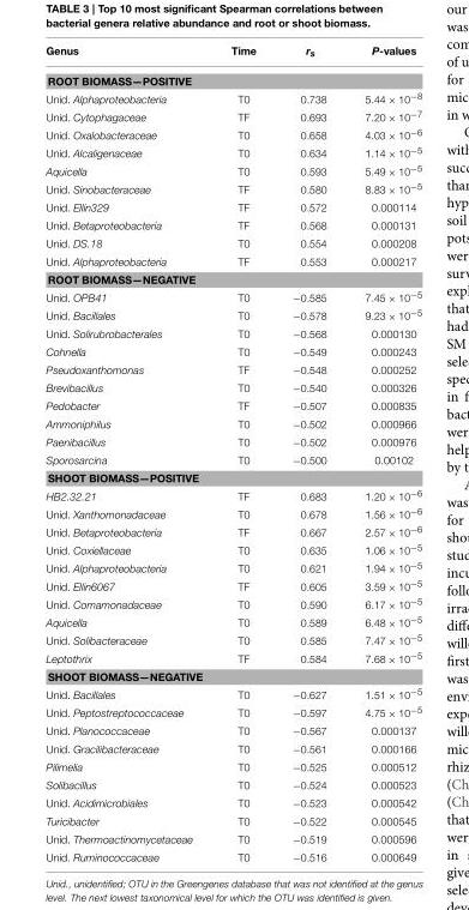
<table><thead><tr><td>Genus</td><td>Time</td><td>rs</td><td>P-values</td></tr></thead><tbody><tr><td colspan="4">ROOT BIOMASS—POSITIVE</td></tr><tr><td>Unid. Alphaproteobacteria</td><td>T0</td><td>0.738</td><td>5.44 × 10<sup>−8</sup></td></tr><tr><td>Unid. Cytophagaceae</td><td>TF</td><td>0.693</td><td>7.20 × 10<sup>−7</sup></td></tr><tr><td>Unid. Oxalobacteraceae</td><td>T0</td><td>0.658</td><td>4.03 × 10<sup>−6</sup></td></tr><tr><td>Unid. Alcaligenaceae</td><td>T0</td><td>0.634</td><td>1.14 × 10<sup>−5</sup></td></tr><tr><td>Aquicella</td><td>T0</td><td>0.593</td><td>5.49 × 10<sup>−5</sup></td></tr><tr><td>Unid. Sinobacteraceae</td><td>TF</td><td>0.580</td><td>8.83 × 10<sup>−5</sup></td></tr><tr><td>Unid. Ellin329</td><td>TF</td><td>0.572</td><td>0.000114</td></tr><tr><td>Unid. Betaproteobacteria</td><td>TF</td><td>0.568</td><td>0.000131</td></tr><tr><td>Unid. DS.18</td><td>T0</td><td>0.554</td><td>0.000208</td></tr><tr><td>Unid. Alphaproteobacteria</td><td>TF</td><td>0.553</td><td>0.000217</td></tr><tr><td colspan="4">ROOT BIOMASS—NEGATIVE</td></tr><tr><td>Unid. OPB41</td><td>T0</td><td>−0.585</td><td>7.45 × 10<sup>−5</sup></td></tr><tr><td>Unid. Bacillales</td><td>T0</td><td>−0.578</td><td>9.23 × 10<sup>−5</sup></td></tr><tr><td>Unid. Solirubrobacterales</td><td>T0</td><td>−0.568</td><td>0.000130</td></tr><tr><td>Cohnella</td><td>T0</td><td>−0.549</td><td>0.000243</td></tr><tr><td>Pseudoxanthomonas</td><td>TF</td><td>−0.548</td><td>0.000252</td></tr><tr><td>Brevibacillus</td><td>T0</td><td>−0.540</td><td>0.000326</td></tr><tr><td>Pedobacter</td><td>TF</td><td>−0.507</td><td>0.000835</td></tr><tr><td>Ammoniphilus</td><td>T0</td><td>−0.502</td><td>0.000966</td></tr><tr><td>Paenibacillus</td><td>T0</td><td>−0.502</td><td>0.000976</td></tr><tr><td>Sporosarcina</td><td>T0</td><td>−0.500</td><td>0.00102</td></tr><tr><td colspan="4">SHOOT BIOMASS—POSITIVE</td></tr><tr><td>HB2.32.21</td><td>TF</td><td>0.683</td><td>1.20 × 10<sup>−6</sup></td></tr><tr><td>Unid. Xanthomonadaceae</td><td>T0</td><td>0.678</td><td>1.56 × 10<sup>−6</sup></td></tr><tr><td>Unid. Betaproteobacteria</td><td>TF</td><td>0.667</td><td>2.57 × 10<sup>−6</sup></td></tr><tr><td>Unid. Coxiellaceae</td><td>T0</td><td>0.635</td><td>1.06 × 10<sup>−5</sup></td></tr><tr><td>Unid. Alphaproteobacteria</td><td>T0</td><td>0.621</td><td>1.94 × 10<sup>−5</sup></td></tr><tr><td>Unid. Ellin6067</td><td>TF</td><td>0.605</td><td>3.59 × 10<sup>−5</sup></td></tr><tr><td>Unid. Comamonadaceae</td><td>T0</td><td>0.590</td><td>6.17 × 10<sup>−5</sup></td></tr><tr><td>Aquicella</td><td>T0</td><td>0.589</td><td>6.48 × 10<sup>−5</sup></td></tr><tr><td>Unid. Solibacteraceae</td><td>T0</td><td>0.585</td><td>7.47 × 10<sup>−5</sup></td></tr><tr><td>Leptothrix</td><td>TF</td><td>0.584</td><td>7.68 × 10<sup>−5</sup></td></tr><tr><td colspan="4">SHOOT BIOMASS—NEGATIVE</td></tr><tr><td>Unid. Bacillales</td><td>T0</td><td>−0.627</td><td>1.51 × 10<sup>−5</sup></td></tr><tr><td>Unid. Peptostreptococcaceae</td><td>T0</td><td>−0.597</td><td>4.75 × 10<sup>−5</sup></td></tr><tr><td>Unid. Planococcaceae</td><td>T0</td><td>−0.567</td><td>0.000137</td></tr><tr><td>Unid. Gracilibacteraceae</td><td>T0</td><td>−0.561</td><td>0.000166</td></tr><tr><td>Pilimelia</td><td>T0</td><td>−0.525</td><td>0.000512</td></tr><tr><td>Solibacillus</td><td>T0</td><td>−0.524</td><td>0.000523</td></tr><tr><td>Unid. Acidimicrobiales</td><td>T0</td><td>−0.523</td><td>0.000542</td></tr><tr><td>Turicibacter</td><td>T0</td><td>−0.522</td><td>0.000545</td></tr><tr><td>Unid. Thermoactinomycetaceae</td><td>T0</td><td>−0.519</td><td>0.000596</td></tr><tr><td>Unid. Ruminococcaceae</td><td>T0</td><td>−0.516</td><td>0.000649</td></tr></tbody></table>